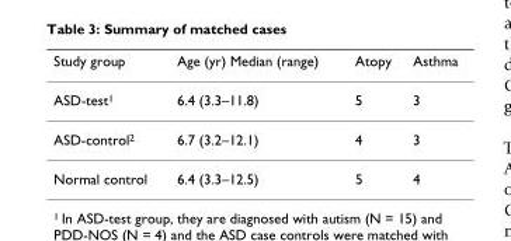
<table><thead><tr><td>Study group</td><td>Age (yr) Median (range)</td><td>Atopy</td><td>Asthma</td></tr></thead><tbody><tr><td>ASD-test<sup>1</sup></td><td>6.4 (3.3–11.8)</td><td>5</td><td>3</td></tr><tr><td>ASD-control<sup>2</sup></td><td>6.7 (3.2–12.1)</td><td>4</td><td>3</td></tr><tr><td>Normal control</td><td>6.4 (3.3–12.5)</td><td>5</td><td>4</td></tr></tbody></table>